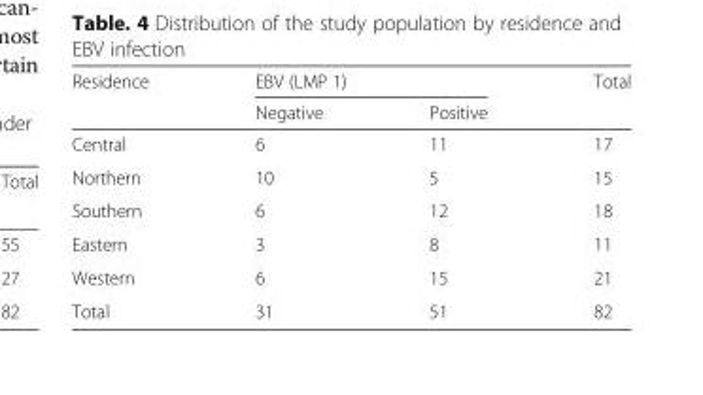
<table><thead><tr><td rowspan="2">Residence</td><td colspan="2">EBV (LMP 1)</td><td rowspan="2">Total</td></tr><tr><td>Negative</td><td>Positive</td></tr></thead><tbody><tr><td>Central</td><td>6</td><td>11</td><td>17</td></tr><tr><td>Northern</td><td>10</td><td>5</td><td>15</td></tr><tr><td>Southern</td><td>6</td><td>12</td><td>18</td></tr><tr><td>Eastern</td><td>3</td><td>8</td><td>11</td></tr><tr><td>Western</td><td>6</td><td>15</td><td>21</td></tr><tr><td>Total</td><td>31</td><td>51</td><td>82</td></tr></tbody></table>